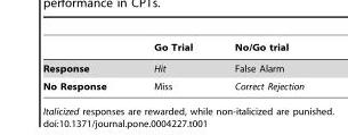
<table><thead><tr><td></td><td>Go Trial</td><td>No/Go trial</td></tr></thead><tbody><tr><td>Response</td><td>Hit</td><td>False Alarm</td></tr><tr><td>No Response</td><td>Miss</td><td>Correct Rejection</td></tr></tbody></table>